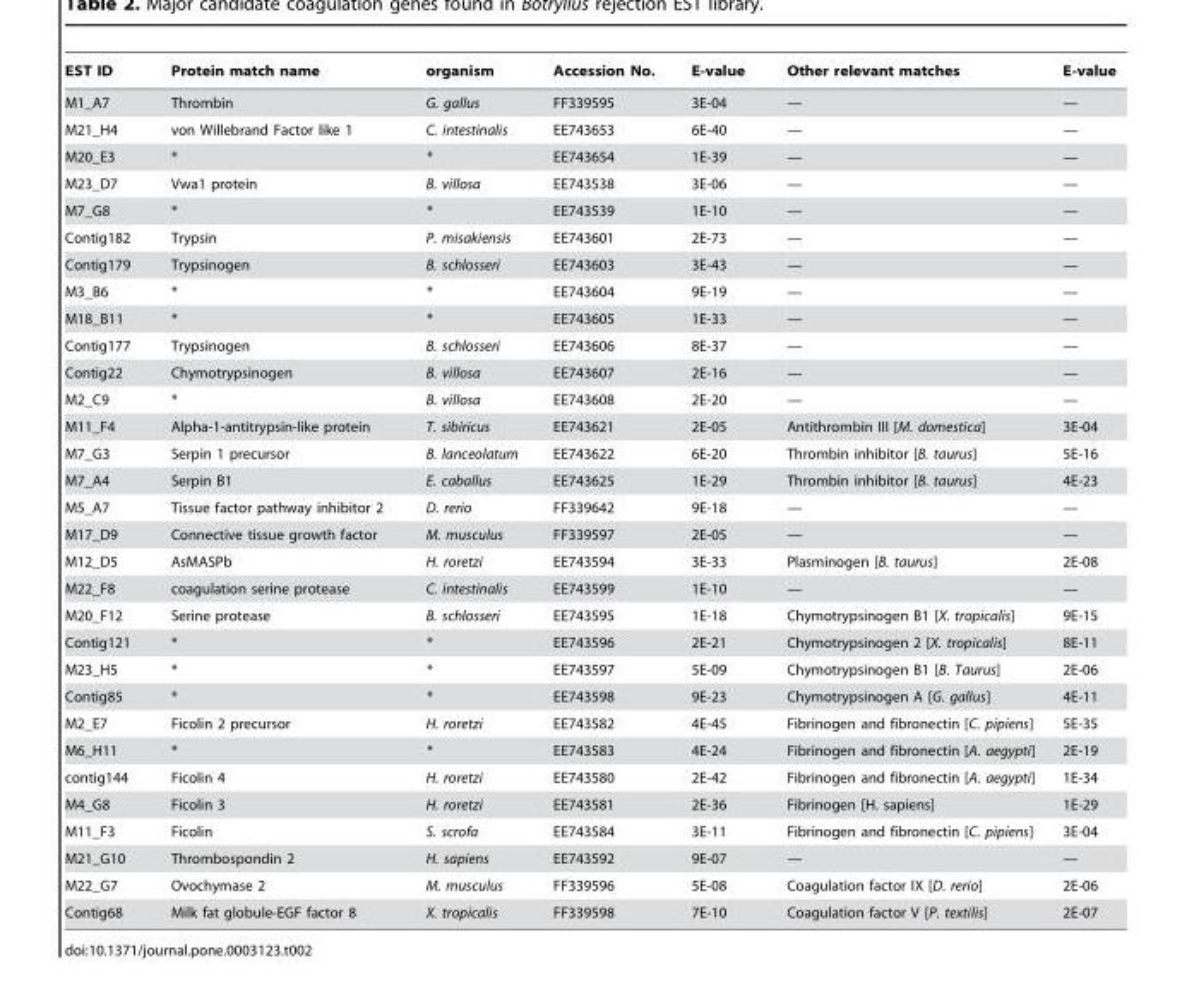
<table><thead><tr><td>EST ID</td><td>Protein match name</td><td>organism</td><td>Accession No.</td><td>E-value</td><td>Other relevant matches</td><td>E-value</td></tr></thead><tbody><tr><td>M1_A7</td><td>Thrombin</td><td>G. gallus</td><td>FF339595</td><td>3E-04</td><td>—</td><td>—</td></tr><tr><td>M21_H4</td><td>von Willebrand Factor like 1</td><td>C. intestinalis</td><td>EE743653</td><td>6E-40</td><td>—</td><td>—</td></tr><tr><td>M20_E3</td><td>*</td><td>*</td><td>EE743654</td><td>1E-39</td><td>—</td><td>—</td></tr><tr><td>M23_D7</td><td>Vwa1 protein</td><td>B. villosa</td><td>EE743538</td><td>3E-06</td><td>—</td><td>—</td></tr><tr><td>M7_G8</td><td>*</td><td>*</td><td>EE743539</td><td>1E-10</td><td>—</td><td>—</td></tr><tr><td>Contig182</td><td>Trypsin</td><td>P. misakiensis</td><td>EE743601</td><td>2E-73</td><td>—</td><td>—</td></tr><tr><td>Contig179</td><td>Trypsinogen</td><td>B. schlosseri</td><td>EE743603</td><td>3E-43</td><td>—</td><td>—</td></tr><tr><td>M3_B6</td><td>*</td><td>*</td><td>EE743604</td><td>9E-19</td><td>—</td><td>—</td></tr><tr><td>M18_B11</td><td>*</td><td>*</td><td>EE743605</td><td>1E-33</td><td>—</td><td>—</td></tr><tr><td>Contig177</td><td>Trypsinogen</td><td>B. schlosseri</td><td>EE743606</td><td>8E-37</td><td>—</td><td>—</td></tr><tr><td>Contig22</td><td>Chymotrypsinogen</td><td>B. villosa</td><td>EE743607</td><td>2E-16</td><td>—</td><td>—</td></tr><tr><td>M2_C9</td><td>*</td><td>B. villosa</td><td>EE743608</td><td>2E-20</td><td>—</td><td>—</td></tr><tr><td>M11_F4</td><td>Alpha-1-antitrypsin-like protein</td><td>T. sibiricus</td><td>EE743621</td><td>2E-05</td><td>Antithrombin III [M. domestica]</td><td>3E-04</td></tr><tr><td>M7_G3</td><td>Serpin 1 precursor</td><td>B. lanceolatum</td><td>EE743622</td><td>6E-20</td><td>Thrombin inhibitor [B. taurus]</td><td>5E-16</td></tr><tr><td>M7_A4</td><td>Serpin B1</td><td>E. caballus</td><td>EE743625</td><td>1E-29</td><td>Thrombin inhibitor [B. taurus]</td><td>4E-23</td></tr><tr><td>M5_A7</td><td>Tissue factor pathway inhibitor 2</td><td>D. rerio</td><td>FF339642</td><td>9E-18</td><td>—</td><td>—</td></tr><tr><td>M17_D9</td><td>Connective tissue growth factor</td><td>M. musculus</td><td>FF339597</td><td>2E-05</td><td>—</td><td>—</td></tr><tr><td>M12_D5</td><td>AsMASPb</td><td>H. roretzi</td><td>EE743594</td><td>3E-33</td><td>Plasminogen [B. taurus]</td><td>2E-08</td></tr><tr><td>M22_F8</td><td>coagulation serine protease</td><td>C. intestinalis</td><td>EE743599</td><td>1E-10</td><td>—</td><td>—</td></tr><tr><td>M20_F12</td><td>Serine protease</td><td>B. schlosseri</td><td>EE743595</td><td>1E-18</td><td>Chymotrypsinogen B1 [X. tropicalis]</td><td>9E-15</td></tr><tr><td>Contig121</td><td>*</td><td>*</td><td>EE743596</td><td>2E-21</td><td>Chymotrypsinogen 2 [X. tropicalis]</td><td>8E-11</td></tr><tr><td>M23_H5</td><td>*</td><td>*</td><td>EE743597</td><td>5E-09</td><td>Chymotrypsinogen B1 [B. Taurus]</td><td>2E-06</td></tr><tr><td>Contig85</td><td>*</td><td>*</td><td>EE743598</td><td>9E-23</td><td>Chymotrypsinogen A [G. gallus]</td><td>4E-11</td></tr><tr><td>M2_E7</td><td>Ficolin 2 precursor</td><td>H. roretzi</td><td>EE743582</td><td>4E-45</td><td>Fibrinogen and fibronectin [C. pipiens]</td><td>5E-35</td></tr><tr><td>M6_H11</td><td>*</td><td>*</td><td>EE743583</td><td>4E-24</td><td>Fibrinogen and fibronectin [A. aegypti]</td><td>2E-19</td></tr><tr><td>contig144</td><td>Ficolin 4</td><td>H. roretzi</td><td>EE743580</td><td>2E-42</td><td>Fibrinogen and fibronectin [A. aegypti]</td><td>1E-34</td></tr><tr><td>M4_G8</td><td>Ficolin 3</td><td>H. roretzi</td><td>EE743581</td><td>2E-36</td><td>Fibrinogen [H. sapiens]</td><td>1E-29</td></tr><tr><td>M11_F3</td><td>Ficolin</td><td>S. scrofa</td><td>EE743584</td><td>3E-11</td><td>Fibrinogen and fibronectin [C. pipiens]</td><td>3E-04</td></tr><tr><td>M21_G10</td><td>Thrombospondin 2</td><td>H. sapiens</td><td>EE743592</td><td>9E-07</td><td>—</td><td>—</td></tr><tr><td>M22_G7</td><td>Ovochymase 2</td><td>M. musculus</td><td>FF339596</td><td>5E-08</td><td>Coagulation factor IX [D. rerio]</td><td>2E-06</td></tr><tr><td>Contig68</td><td>Milk fat globule-EGF factor 8</td><td>X. tropicalis</td><td>FF339598</td><td>7E-10</td><td>Coagulation factor V [P. textilis]</td><td>2E-07</td></tr></tbody></table>